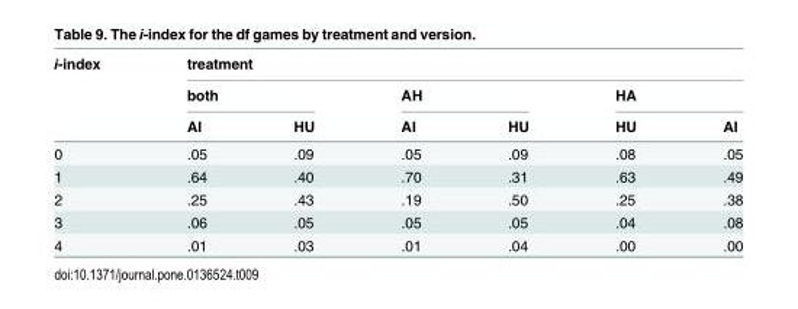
<table><thead><tr><td rowspan="3">i-index</td><td colspan="6">treatment</td></tr><tr><td colspan="2">both</td><td colspan="2">AH</td><td colspan="2">HA</td></tr><tr><td>AI</td><td>HU</td><td>AI</td><td>HU</td><td>HU</td><td>AI</td></tr></thead><tbody><tr><td>0</td><td>.05</td><td>.09</td><td>.05</td><td>.09</td><td>.08</td><td>.05</td></tr><tr><td>1</td><td>.64</td><td>.40</td><td>.70</td><td>.31</td><td>.63</td><td>.49</td></tr><tr><td>2</td><td>.25</td><td>.43</td><td>.19</td><td>.50</td><td>.25</td><td>.38</td></tr><tr><td>3</td><td>.06</td><td>.05</td><td>.05</td><td>.05</td><td>.04</td><td>.08</td></tr><tr><td>4</td><td>.01</td><td>.03</td><td>.01</td><td>.04</td><td>.00</td><td>.00</td></tr></tbody></table>